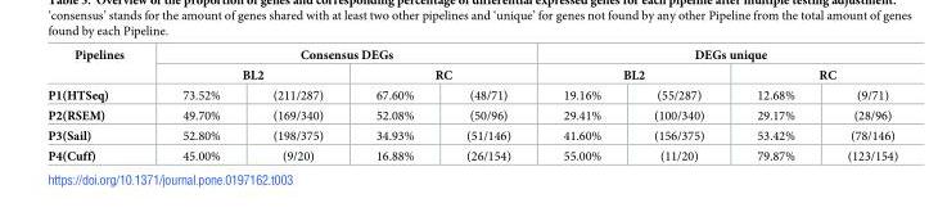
<table><thead><tr><td rowspan="3">Pipelines P1(HTSeq)</td><td colspan="4">Consensus DEGs</td><td colspan="4">DEGs unique</td></tr><tr><td colspan="2">BL2</td><td colspan="2">RC</td><td colspan="2">BL2</td><td colspan="2">RC</td></tr><tr><td>73.52%</td><td>(211/287)</td><td>67.60%</td><td>(48/71)</td><td>19.16%</td><td>(55/287)</td><td>12.68%</td><td>(9/71)</td></tr></thead><tbody><tr><td>P2(RSEM)</td><td>49.70%</td><td>(169/340)</td><td>52.08%</td><td>(50/96)</td><td>29.41%</td><td>(100/340)</td><td>29.17%</td><td>(28/96)</td></tr><tr><td>P3(Sail)</td><td>52.80%</td><td>(198/375)</td><td>34.93%</td><td>(51/146)</td><td>41.60%</td><td>(156/375)</td><td>53.42%</td><td>(78/146)</td></tr><tr><td>P4(Cuff)</td><td>45.00%</td><td>(9/20)</td><td>16.88%</td><td>(26/154)</td><td>55.00%</td><td>(11/20)</td><td>79.87%</td><td>(123/154)</td></tr></tbody></table>